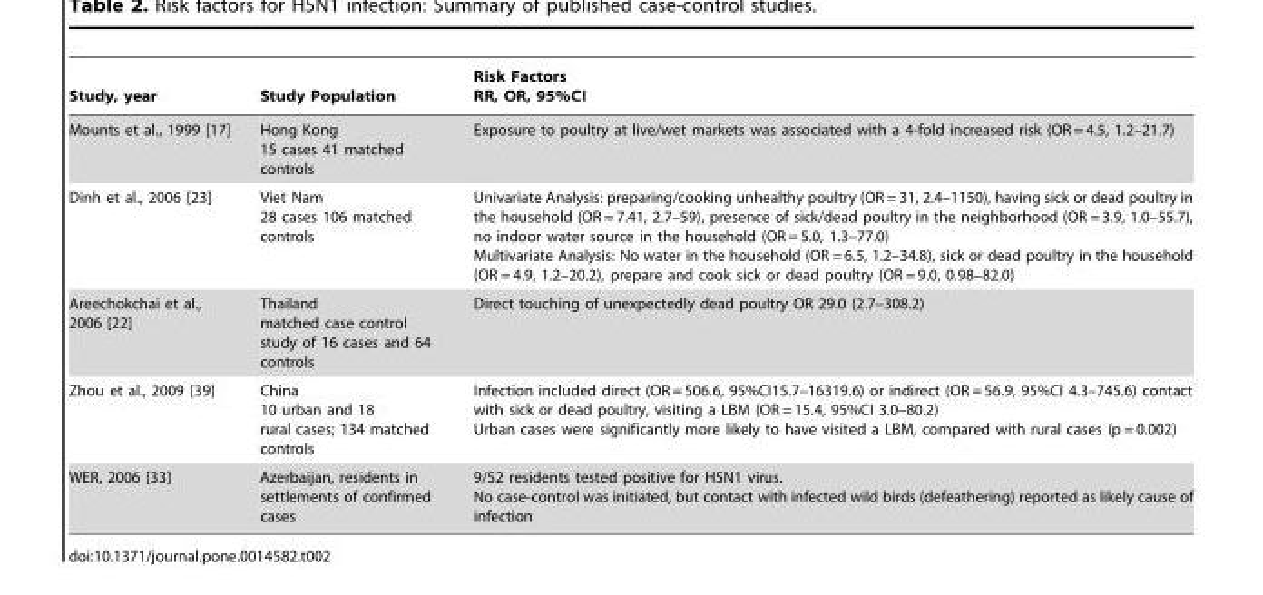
<table><thead><tr><td>Study, year</td><td>Study Population</td><td>Risk Factors RR, OR, 95%CI</td></tr></thead><tbody><tr><td>Mounts et al., 1999 [17]</td><td>Hong Kong 15 cases 41 matched controls</td><td>Exposure to poultry at live/wet markets was associated with a 4-fold increased risk (OR = 4.5, 1.2–21.7)</td></tr><tr><td>Dinh et al., 2006 [23]</td><td>Viet Nam 28 cases 106 matched controls</td><td>Univariate Analysis: preparing/cooking unhealthy poultry (OR = 31, 2.4–1150), having sick or dead poultry in the household (OR = 7.41, 2.7–59), presence of sick/dead poultry in the neighborhood (OR = 3.9, 1.0–55.7), no indoor water source in the household (OR = 5.0, 1.3–77.0) Multivariate Analysis: No water in the household (OR = 6.5, 1.2–34.8), sick or dead poultry in the household (OR = 4.9, 1.2–20.2), prepare and cook sick or dead poultry (OR = 9.0, 0.98–82.0)</td></tr><tr><td>Areechokchai et al., 2006 [22]</td><td>Thailand matched case control study of 16 cases and 64 controls</td><td>Direct touching of unexpectedly dead poultry OR 29.0 (2.7–308.2)</td></tr><tr><td>Zhou et al., 2009 [39]</td><td>China 10 urban and 18 rural cases; 134 matched controls</td><td>Infection included direct (OR = 506.6, 95%CI15.7–16319.6) or indirect (OR = 56.9, 95%CI 4.3–745.6) contact with sick or dead poultry, visiting a LBM (OR = 15.4, 95%CI 3.0–80.2) Urban cases were significantly more likely to have visited a LBM, compared with rural cases (p = 0.002)</td></tr><tr><td>WER, 2006 [33]</td><td>Azerbaijan, residents in settlements of confirmed cases</td><td>9/52 residents tested positive for H5N1 virus. No case-control was initiated, but contact with infected wild birds (defeathering) reported as likely cause of infection</td></tr></tbody></table>